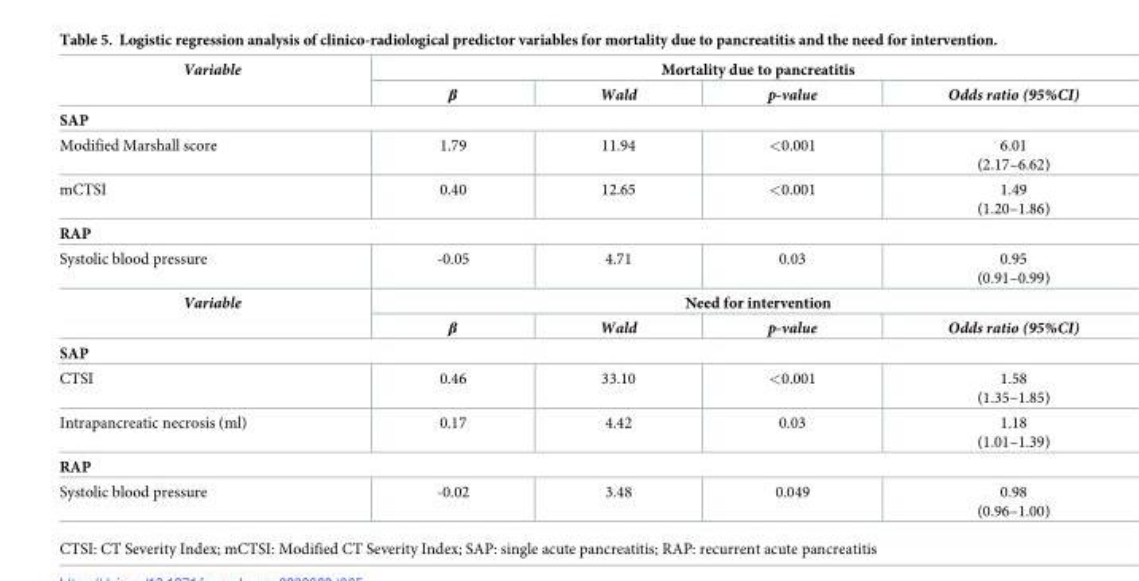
<table><tbody><tr><td rowspan="2">Variable</td><td colspan="4">Mortality due to pancreatitis</td></tr><tr><td>β</td><td>Wald</td><td>p-value</td><td>Odds ratio (95%CI)</td></tr><tr><td colspan="5">SAP</td></tr><tr><td>Modified Marshall score</td><td>1.79</td><td>11.94</td><td>&lt;0.001</td><td>6.01 (2.17–6.62)</td></tr><tr><td>mCTSI</td><td>0.40</td><td>12.65</td><td>&lt;0.001</td><td>1.49 (1.20–1.86)</td></tr><tr><td colspan="5">RAP</td></tr><tr><td>Systolic blood pressure</td><td>-0.05</td><td>4.71</td><td>0.03</td><td>0.95 (0.91–0.99)</td></tr><tr><td rowspan="2">Variable</td><td colspan="4">Need for intervention</td></tr><tr><td>β</td><td>Wald</td><td>p-value</td><td>Odds ratio (95%CI)</td></tr><tr><td colspan="5">SAP</td></tr><tr><td>CTSI</td><td>0.46</td><td>33.10</td><td>&lt;0.001</td><td>1.58 (1.35–1.85)</td></tr><tr><td>Intrapancreatic necrosis (ml)</td><td>0.17</td><td>4.42</td><td>0.03</td><td>1.18 (1.01–1.39)</td></tr><tr><td colspan="5">RAP</td></tr><tr><td>Systolic blood pressure</td><td>-0.02</td><td>3.48</td><td>0.049</td><td>0.98 (0.96–1.00)</td></tr></tbody></table>